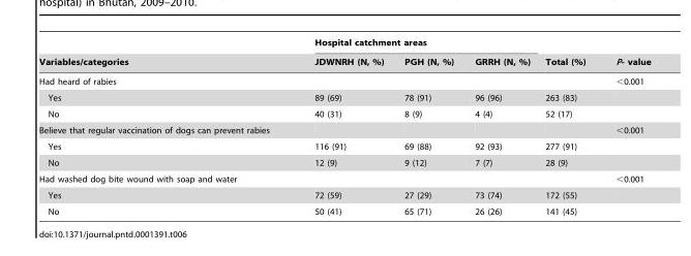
<table><thead><tr><td rowspan="2">Variables/categories</td><td colspan="3">Hospital catchment areas</td><td rowspan="2">Total (%)</td><td rowspan="2">P- value</td></tr><tr><td>JDWNRH (N, %)</td><td>PGH (N, %)</td><td>GRRH (N, %)</td></tr></thead><tbody><tr><td>Had heard of rabies</td><td></td><td></td><td></td><td></td><td>&lt;0.001</td></tr><tr><td>Yes</td><td>89 (69)</td><td>78 (91)</td><td>96 (96)</td><td>263 (83)</td><td></td></tr><tr><td>No</td><td>40 (31)</td><td>8 (9)</td><td>4 (4)</td><td>52 (17)</td><td></td></tr><tr><td>Believe that regular vaccination of dogs can prevent rabies</td><td></td><td></td><td></td><td></td><td>&lt;0.001</td></tr><tr><td>Yes</td><td>116 (91)</td><td>69 (88)</td><td>92 (93)</td><td>277 (91)</td><td></td></tr><tr><td>No</td><td>12 (9)</td><td>9 (12)</td><td>7 (7)</td><td>28 (9)</td><td></td></tr><tr><td>Had washed dog bite wound with soap and water</td><td></td><td></td><td></td><td></td><td>&lt;0.001</td></tr><tr><td>Yes</td><td>72 (59)</td><td>27 (29)</td><td>73 (74)</td><td>172 (55)</td><td></td></tr><tr><td>No</td><td>50 (41)</td><td>65 (71)</td><td>26 (26)</td><td>141 (45)</td><td></td></tr></tbody></table>